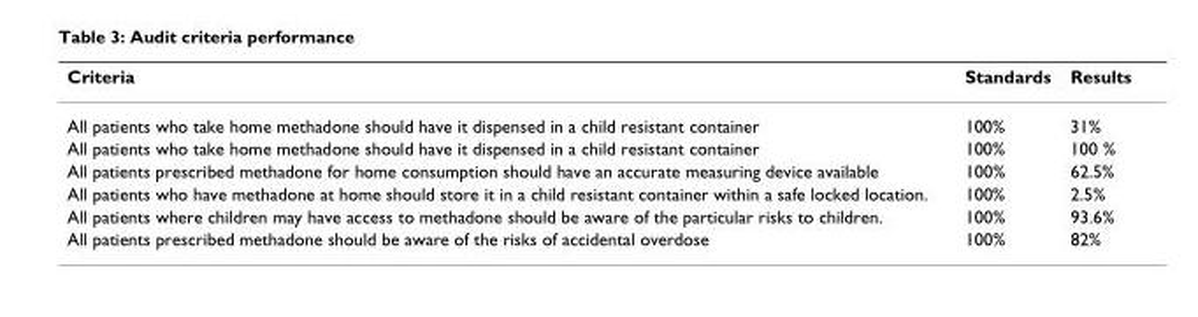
<table><thead><tr><td>Criteria</td><td>Standards</td><td>Results</td></tr></thead><tbody><tr><td>All patients who take home methadone should have it dispensed in a child resistant container</td><td>100%</td><td>31%</td></tr><tr><td>All patients who take home methadone should have it dispensed in a child resistant container</td><td>100%</td><td>100 %</td></tr><tr><td>All patients prescribed methadone for home consumption should have an accurate measuring device available</td><td>100%</td><td>62.5%</td></tr><tr><td>All patients who have methadone at home should store it in a child resistant container within a safe locked location.</td><td>100%</td><td>2.5%</td></tr><tr><td>All patients where children may have access to methadone should be aware of the particular risks to children.</td><td>100%</td><td>93.6%</td></tr><tr><td>All patients prescribed methadone should be aware of the risks of accidental overdose</td><td>100%</td><td>82%</td></tr></tbody></table>